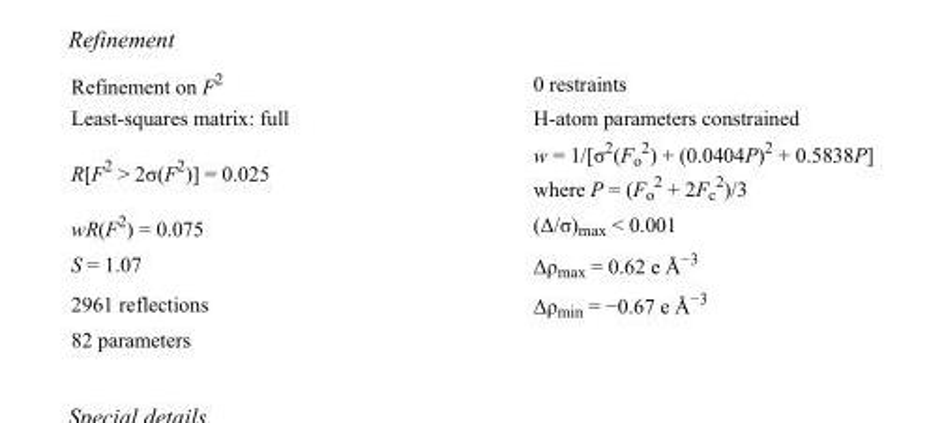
<table><tbody><tr><td>Refinement on F<sup>2</sup></td><td>0 restraints</td></tr><tr><td>Least-squares matrix: full</td><td>H-atom parameters constrained</td></tr><tr><td>R[F<sup>2</sup> &gt; 2σ(F<sup>2</sup>)] = 0.025</td><td>w = 1/[σ<sup>2</sup>(F<sub>o</sub> <sup>2</sup>) + (0.0404P)<sup>2</sup> + 0.5838P] where P = (F<sub>o</sub> <sup>2</sup> + 2F<sub>c</sub> <sup>2</sup>)/3</td></tr><tr><td>wR(F<sup>2</sup>) = 0.075</td><td>(Δ/σ)<sub>max</sub> &lt; 0.001</td></tr><tr><td>S = 1.07</td><td>Δρ<sub>max</sub> = 0.62 e Å<sup>−3</sup></td></tr><tr><td>2961 reflections</td><td>Δρ<sub>min</sub> = −0.67 e Å<sup>−3</sup></td></tr><tr><td>82 parameters</td><td></td></tr></tbody></table>